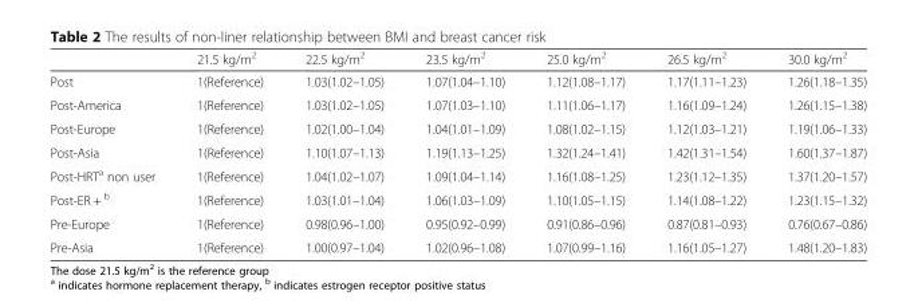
<table><thead><tr><td></td><td>21.5 kg/m<sup>2</sup></td><td>22.5 kg/m<sup>2</sup></td><td>23.5 kg/m<sup>2</sup></td><td>25.0 kg/m<sup>2</sup></td><td>26.5 kg/m<sup>2</sup></td><td>30.0 kg/m<sup>2</sup></td></tr></thead><tbody><tr><td>Post</td><td>1(Reference)</td><td>1.03(1.02–1.05)</td><td>1.07(1.04–1.10)</td><td>1.12(1.08–1.17)</td><td>1.17(1.11–1.23)</td><td>1.26(1.18–1.35)</td></tr><tr><td>Post-America</td><td>1(Reference)</td><td>1.03(1.02–1.05)</td><td>1.07(1.03–1.10)</td><td>1.11(1.06–1.17)</td><td>1.16(1.09–1.24)</td><td>1.26(1.15–1.38)</td></tr><tr><td>Post-Europe</td><td>1(Reference)</td><td>1.02(1.00–1.04)</td><td>1.04(1.01–1.09)</td><td>1.08(1.02–1.15)</td><td>1.12(1.03–1.21)</td><td>1.19(1.06–1.33)</td></tr><tr><td>Post-Asia</td><td>1(Reference)</td><td>1.10(1.07–1.13)</td><td>1.19(1.13–1.25)</td><td>1.32(1.24–1.41)</td><td>1.42(1.31–1.54)</td><td>1.60(1.37–1.87)</td></tr><tr><td>Post-HRT<sup>a</sup> non user</td><td>1(Reference)</td><td>1.04(1.02–1.07)</td><td>1.09(1.04–1.14)</td><td>1.16(1.08–1.25)</td><td>1.23(1.12–1.35)</td><td>1.37(1.20–1.57)</td></tr><tr><td>Post-ER + <sup>b</sup></td><td>1(Reference)</td><td>1.03(1.01–1.04)</td><td>1.06(1.03–1.09)</td><td>1.10(1.05–1.15)</td><td>1.14(1.08–1.22)</td><td>1.23(1.15–1.32)</td></tr><tr><td>Pre-Europe</td><td>1(Reference)</td><td>0.98(0.96–1.00)</td><td>0.95(0.92–0.99)</td><td>0.91(0.86–0.96)</td><td>0.87(0.81–0.93)</td><td>0.76(0.67–0.86)</td></tr><tr><td>Pre-Asia</td><td>1(Reference)</td><td>1.00(0.97–1.04)</td><td>1.02(0.96–1.08)</td><td>1.07(0.99–1.16)</td><td>1.16(1.05–1.27)</td><td>1.48(1.20–1.83)</td></tr></tbody></table>